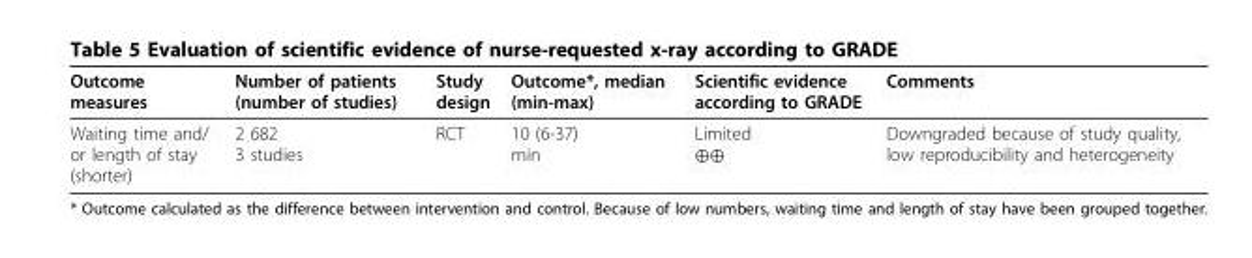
<table><thead><tr><td>Outcome measures</td><td>Number of patients (number of studies)</td><td>Study design</td><td>Outcome*, median (min-max)</td><td>Scientific evidence according to GRADE</td><td>Comments</td></tr></thead><tbody><tr><td>Waiting time and/ or length of stay (shorter)</td><td>2 682 3 studies</td><td>RCT</td><td>10 (6-37) min</td><td>Limited ⊕⊕</td><td>Downgraded because of study quality, low reproducibility and heterogeneity</td></tr></tbody></table>